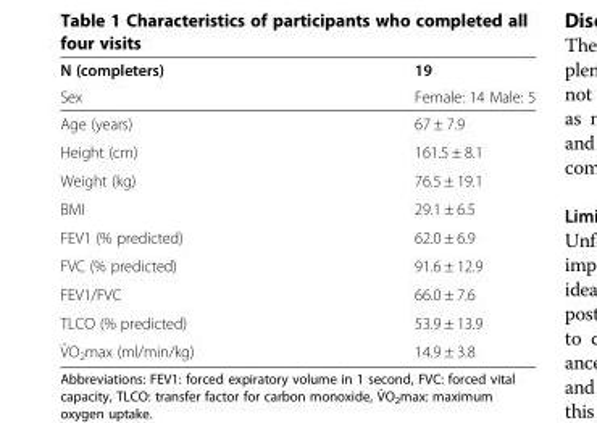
<table><thead><tr><td rowspan="2">N (completers) Sex</td><td rowspan="2">19 Female: 14 Male: 5</td></tr><tr></tr></thead><tbody><tr><td>Age (years)</td><td>67 ± 7.9</td></tr><tr><td>Height (cm)</td><td>161.5 ± 8.1</td></tr><tr><td>Weight (kg)</td><td>76.5 ± 19.1</td></tr><tr><td>BMI</td><td>29.1 ± 6.5</td></tr><tr><td>FEV1 (% predicted)</td><td>62.0 ± 6.9</td></tr><tr><td>FVC (% predicted)</td><td>91.6 ± 12.9</td></tr><tr><td>FEV1/FVC</td><td>66.0 ± 7.6</td></tr><tr><td>TLCO (% predicted)</td><td>53.9 ± 13.9</td></tr><tr><td>V̇O<sub>2</sub>max (ml/min/kg)</td><td>14.9 ± 3.8</td></tr></tbody></table>